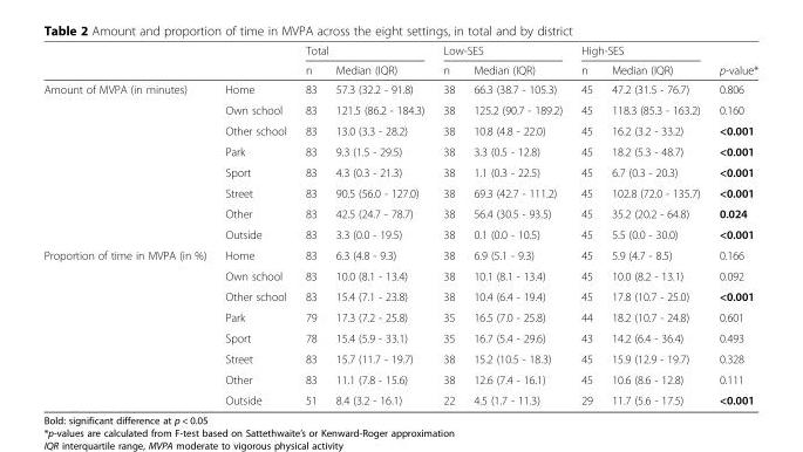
<table><thead><tr><td rowspan="2"></td><td rowspan="2"></td><td colspan="2">Total</td><td colspan="2">Low-SES</td><td colspan="2">High-SES</td><td rowspan="2">p-value*</td></tr><tr><td>n</td><td>Median (IQR)</td><td>n</td><td>Median (IQR)</td><td>n</td><td>Median (IQR)</td></tr></thead><tbody><tr><td rowspan="8">Amount of MVPA (in minutes)</td><td>Home</td><td>83</td><td>57.3 (32.2 - 91.8)</td><td>38</td><td>66.3 (38.7 - 105.3)</td><td>45</td><td>47.2 (31.5 - 76.7)</td><td>0.806</td></tr><tr><td>Own school</td><td>83</td><td>121.5 (86.2 - 184.3)</td><td>38</td><td>125.2 (90.7 - 189.2)</td><td>45</td><td>118.3 (85.3 - 163.2)</td><td>0.160</td></tr><tr><td>Other school</td><td>83</td><td>13.0 (3.3 - 28.2)</td><td>38</td><td>10.8 (4.8 - 22.0)</td><td>45</td><td>16.2 (3.2 - 33.2)</td><td>&lt;0.001</td></tr><tr><td>Park</td><td>83</td><td>9.3 (1.5 - 29.5)</td><td>38</td><td>3.3 (0.5 - 12.8)</td><td>45</td><td>18.2 (5.3 - 48.7)</td><td>&lt;0.001</td></tr><tr><td>Sport</td><td>83</td><td>4.3 (0.3 - 21.3)</td><td>38</td><td>1.1 (0.3 - 22.5)</td><td>45</td><td>6.7 (0.3 - 20.3)</td><td>&lt;0.001</td></tr><tr><td>Street</td><td>83</td><td>90.5 (56.0 - 127.0)</td><td>38</td><td>69.3 (42.7 - 111.2)</td><td>45</td><td>102.8 (72.0 - 135.7)</td><td>&lt;0.001</td></tr><tr><td>Other</td><td>83</td><td>42.5 (24.7 - 78.7)</td><td>38</td><td>56.4 (30.5 - 93.5)</td><td>45</td><td>35.2 (20.2 - 64.8)</td><td>0.024</td></tr><tr><td>Outside</td><td>83</td><td>3.3 (0.0 - 19.5)</td><td>38</td><td>0.1 (0.0 - 10.5)</td><td>45</td><td>5.5 (0.0 - 30.0)</td><td>&lt;0.001</td></tr><tr><td rowspan="8">Proportion of time in MVPA (in %)</td><td>Home</td><td>83</td><td>6.3 (4.8 - 9.3)</td><td>38</td><td>6.9 (5.1 - 9.3)</td><td>45</td><td>5.9 (4.7 - 8.5)</td><td>0.166</td></tr><tr><td>Own school</td><td>83</td><td>10.0 (8.1 - 13.4)</td><td>38</td><td>10.1 (8.1 - 13.4)</td><td>45</td><td>10.0 (8.2 - 13.1)</td><td>0.092</td></tr><tr><td>Other school</td><td>83</td><td>15.4 (7.1 - 23.8)</td><td>38</td><td>10.4 (6.4 - 19.4)</td><td>45</td><td>17.8 (10.7 - 25.0)</td><td>&lt;0.001</td></tr><tr><td>Park</td><td>79</td><td>17.3 (7.2 - 25.8)</td><td>35</td><td>16.5 (7.0 - 25.8)</td><td>44</td><td>18.2 (10.7 - 24.8)</td><td>0.601</td></tr><tr><td>Sport</td><td>78</td><td>15.4 (5.9 - 33.1)</td><td>35</td><td>16.7 (5.4 - 29.6)</td><td>43</td><td>14.2 (6.4 - 36.4)</td><td>0.493</td></tr><tr><td>Street</td><td>83</td><td>15.7 (11.7 - 19.7)</td><td>38</td><td>15.2 (10.5 - 18.3)</td><td>45</td><td>15.9 (12.9 - 19.7)</td><td>0.328</td></tr><tr><td>Other</td><td>83</td><td>11.1 (7.8 - 15.6)</td><td>38</td><td>12.6 (7.4 - 16.1)</td><td>45</td><td>10.6 (8.6 - 12.8)</td><td>0.111</td></tr><tr><td>Outside</td><td>51</td><td>8.4 (3.2 - 16.1)</td><td>22</td><td>4.5 (1.7 - 11.3)</td><td>29</td><td>11.7 (5.6 - 17.5)</td><td>&lt;0.001</td></tr></tbody></table>